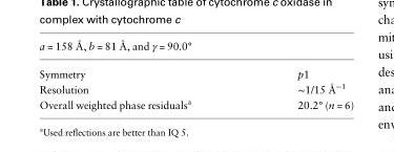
<table><thead><tr><td colspan="2">a = 158 Å, b = 81 Å, and γ = 90.0°</td></tr><tr><td>Symmetry</td><td>p1</td></tr></thead><tbody><tr><td>Resolution</td><td>∼1/15 Å<sup>−1</sup></td></tr><tr><td>Overall weighted phase residuals<sup>a</sup></td><td>20.2° (n = 6)</td></tr></tbody></table>